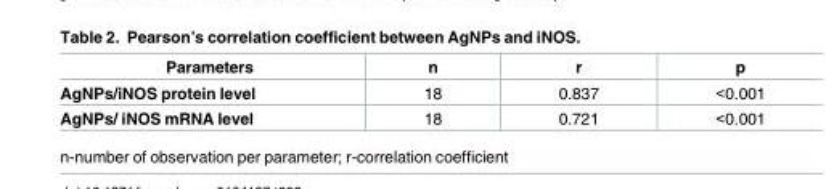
<table><thead><tr><td>Parameters</td><td>n</td><td>r</td><td>p</td></tr></thead><tbody><tr><td>AgNPs/iNOS protein level</td><td>18</td><td>0.837</td><td>&lt;0.001</td></tr><tr><td>AgNPs/ iNOS mRNA level</td><td>18</td><td>0.721</td><td>&lt;0.001</td></tr></tbody></table>